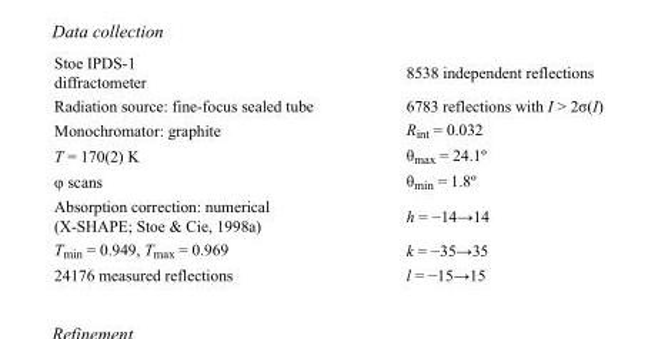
<table><tbody><tr><td>Stoe IPDS-1 diffractometer</td><td>8538 independent reflections</td></tr><tr><td>Radiation source: fine-focus sealed tube</td><td>6783 reflections with I &gt; 2σ(I)</td></tr><tr><td>Monochromator: graphite</td><td>R<sub>int</sub> = 0.032</td></tr><tr><td>T = 170(2) K</td><td>θ<sub>max</sub> = 24.1º</td></tr><tr><td>φ scans</td><td>θ<sub>min</sub> = 1.8º</td></tr><tr><td>Absorption correction: numerical (X-SHAPE; Stoe &amp; Cie, 1998a)</td><td>h = −14→14</td></tr><tr><td>T<sub>min</sub> = 0.949, T<sub>max</sub> = 0.969</td><td>k = −35→35</td></tr><tr><td>24176 measured reflections</td><td>l = −15→15</td></tr></tbody></table>